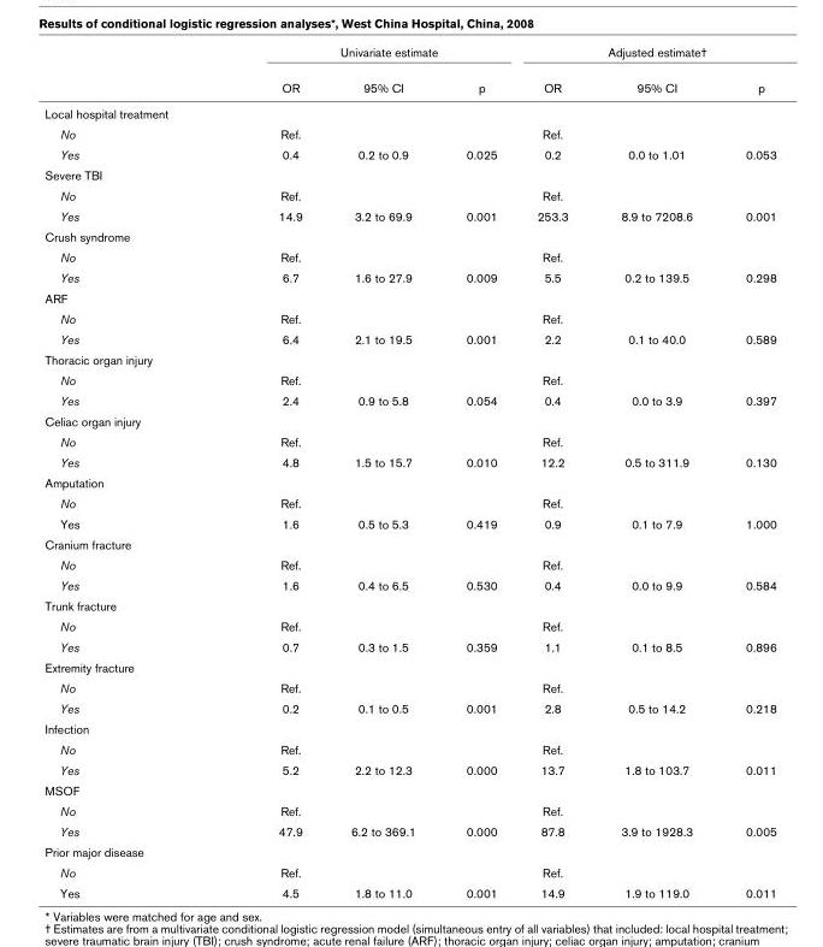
<table><thead><tr><td rowspan="2"></td><td colspan="3">Univariate estimate</td><td colspan="3">Adjusted estimate†</td></tr><tr><td>OR</td><td>95% CI</td><td>p</td><td>OR</td><td>95% CI</td><td>p</td></tr></thead><tbody><tr><td colspan="7">Local hospital treatment</td></tr><tr><td>No</td><td>Ref.</td><td></td><td></td><td>Ref.</td><td></td><td></td></tr><tr><td>Yes</td><td>0.4</td><td>0.2 to 0.9</td><td>0.025</td><td>0.2</td><td>0.0 to 1.01</td><td>0.053</td></tr><tr><td colspan="7">Severe TBI</td></tr><tr><td>No</td><td>Ref.</td><td></td><td></td><td>Ref.</td><td></td><td></td></tr><tr><td>Yes</td><td>14.9</td><td>3.2 to 69.9</td><td>0.001</td><td>253.3</td><td>8.9 to 7208.6</td><td>0.001</td></tr><tr><td colspan="7">Crush syndrome</td></tr><tr><td>No</td><td>Ref.</td><td></td><td></td><td>Ref.</td><td></td><td></td></tr><tr><td>Yes</td><td>6.7</td><td>1.6 to 27.9</td><td>0.009</td><td>5.5</td><td>0.2 to 139.5</td><td>0.298</td></tr><tr><td colspan="7">ARF</td></tr><tr><td>No</td><td>Ref.</td><td></td><td></td><td>Ref.</td><td></td><td></td></tr><tr><td>Yes</td><td>6.4</td><td>2.1 to 19.5</td><td>0.001</td><td>2.2</td><td>0.1 to 40.0</td><td>0.589</td></tr><tr><td colspan="7">Thoracic organ injury</td></tr><tr><td>No</td><td>Ref.</td><td></td><td></td><td>Ref.</td><td></td><td></td></tr><tr><td>Yes</td><td>2.4</td><td>0.9 to 5.8</td><td>0.054</td><td>0.4</td><td>0.0 to 3.9</td><td>0.397</td></tr><tr><td colspan="7">Celiac organ injury</td></tr><tr><td>No</td><td>Ref.</td><td></td><td></td><td>Ref.</td><td></td><td></td></tr><tr><td>Yes</td><td>4.8</td><td>1.5 to 15.7</td><td>0.010</td><td>12.2</td><td>0.5 to 311.9</td><td>0.130</td></tr><tr><td colspan="7">Amputation</td></tr><tr><td>No</td><td>Ref.</td><td></td><td></td><td>Ref.</td><td></td><td></td></tr><tr><td>Yes</td><td>1.6</td><td>0.5 to 5.3</td><td>0.419</td><td>0.9</td><td>0.1 to 7.9</td><td>1.000</td></tr><tr><td colspan="7">Cranium fracture</td></tr><tr><td>No</td><td>Ref.</td><td></td><td></td><td>Ref.</td><td></td><td></td></tr><tr><td>Yes</td><td>1.6</td><td>0.4 to 6.5</td><td>0.530</td><td>0.4</td><td>0.0 to 9.9</td><td>0.584</td></tr><tr><td colspan="7">Trunk fracture</td></tr><tr><td>No</td><td>Ref.</td><td></td><td></td><td>Ref.</td><td></td><td></td></tr><tr><td>Yes</td><td>0.7</td><td>0.3 to 1.5</td><td>0.359</td><td>1.1</td><td>0.1 to 8.5</td><td>0.896</td></tr><tr><td colspan="7">Extremity fracture</td></tr><tr><td>No</td><td>Ref.</td><td></td><td></td><td>Ref.</td><td></td><td></td></tr><tr><td>Yes</td><td>0.2</td><td>0.1 to 0.5</td><td>0.001</td><td>2.8</td><td>0.5 to 14.2</td><td>0.218</td></tr><tr><td colspan="7">Infection</td></tr><tr><td>No</td><td>Ref.</td><td></td><td></td><td>Ref.</td><td></td><td></td></tr><tr><td>Yes</td><td>5.2</td><td>2.2 to 12.3</td><td>0.000</td><td>13.7</td><td>1.8 to 103.7</td><td>0.011</td></tr><tr><td colspan="7">MSOF</td></tr><tr><td>No</td><td>Ref.</td><td></td><td></td><td>Ref.</td><td></td><td></td></tr><tr><td>Yes</td><td>47.9</td><td>6.2 to 369.1</td><td>0.000</td><td>87.8</td><td>3.9 to 1928.3</td><td>0.005</td></tr><tr><td colspan="7">Prior major disease</td></tr><tr><td>No</td><td>Ref.</td><td></td><td></td><td>Ref.</td><td></td><td></td></tr><tr><td>Yes</td><td>4.5</td><td>1.8 to 11.0</td><td>0.001</td><td>14.9</td><td>1.9 to 119.0</td><td>0.011</td></tr></tbody></table>